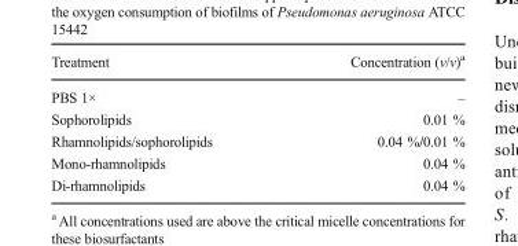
<table><thead><tr><td>Treatment</td><td>Concentration (v/v)<sup>a</sup></td></tr></thead><tbody><tr><td>PBS 1×</td><td>–</td></tr><tr><td>Sophorolipids</td><td>0.01 %</td></tr><tr><td>Rhamnolipids/sophorolipids</td><td>0.04 %/0.01 %</td></tr><tr><td>Mono-rhamnolipids</td><td>0.04 %</td></tr><tr><td>Di-rhamnolipids</td><td>0.04 %</td></tr></tbody></table>